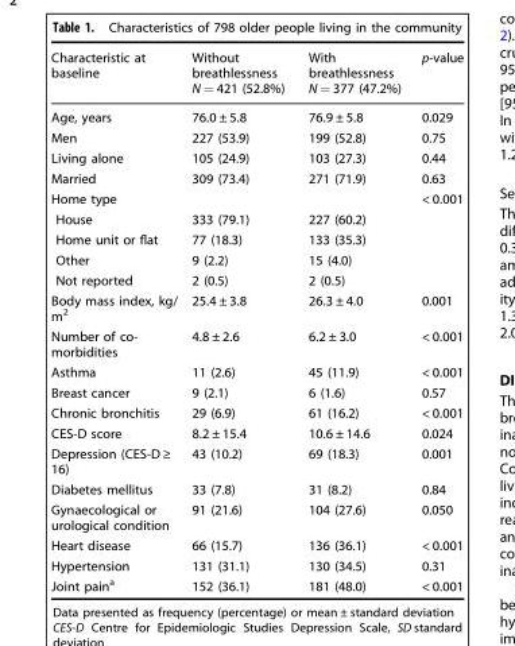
<table><thead><tr><td>Characteristic at baseline</td><td>Without breathlessness N = 421 (52.8%)</td><td>With breathlessness N = 377 (47.2%)</td><td>p-value</td></tr></thead><tbody><tr><td>Age, years</td><td>76.0 ± 5.8</td><td>76.9 ± 5.8</td><td>0.029</td></tr><tr><td>Men</td><td>227 (53.9)</td><td>199 (52.8)</td><td>0.75</td></tr><tr><td>Living alone</td><td>105 (24.9)</td><td>103 (27.3)</td><td>0.44</td></tr><tr><td>Married</td><td>309 (73.4)</td><td>271 (71.9)</td><td>0.63</td></tr><tr><td>Home type</td><td></td><td></td><td>&lt; 0.001</td></tr><tr><td>House</td><td>333 (79.1)</td><td>227 (60.2)</td><td></td></tr><tr><td>Home unit or flat</td><td>77 (18.3)</td><td>133 (35.3)</td><td></td></tr><tr><td>Other</td><td>9 (2.2)</td><td>15 (4.0)</td><td></td></tr><tr><td>Not reported</td><td>2 (0.5)</td><td>2 (0.5)</td><td></td></tr><tr><td>Body mass index, kg/ m<sup>2</sup></td><td>25.4 ± 3.8</td><td>26.3 ± 4.0</td><td>0.001</td></tr><tr><td>Number of co- morbidities</td><td>4.8 ± 2.6</td><td>6.2 ± 3.0</td><td>&lt; 0.001</td></tr><tr><td>Asthma</td><td>11 (2.6)</td><td>45 (11.9)</td><td>&lt; 0.001</td></tr><tr><td>Breast cancer</td><td>9 (2.1)</td><td>6 (1.6)</td><td>0.57</td></tr><tr><td>Chronic bronchitis</td><td>29 (6.9)</td><td>61 (16.2)</td><td>&lt; 0.001</td></tr><tr><td>CES-D score</td><td>8.2 ± 15.4</td><td>10.6 ± 14.6</td><td>0.024</td></tr><tr><td>Depression (CES-D ≥ 16)</td><td>43 (10.2)</td><td>69 (18.3)</td><td>0.001</td></tr><tr><td>Diabetes mellitus</td><td>33 (7.8)</td><td>31 (8.2)</td><td>0.84</td></tr><tr><td>Gynaecological or urological condition</td><td>91 (21.6)</td><td>104 (27.6)</td><td>0.050</td></tr><tr><td>Heart disease</td><td>66 (15.7)</td><td>136 (36.1)</td><td>&lt; 0.001</td></tr><tr><td>Hypertension</td><td>131 (31.1)</td><td>130 (34.5)</td><td>0.31</td></tr><tr><td>Joint pain<sup>a</sup></td><td>152 (36.1)</td><td>181 (48.0)</td><td>&lt; 0.001</td></tr></tbody></table>